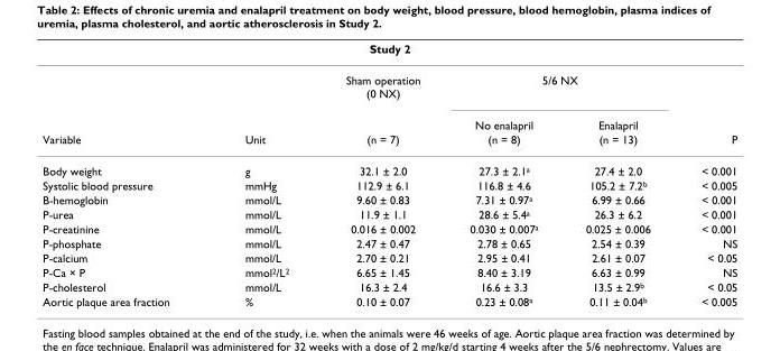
<table><thead><tr><td colspan="6">Study 2</td></tr><tr><td rowspan="2"></td><td rowspan="2"></td><td rowspan="2">Sham operation (0 NX)</td><td colspan="2">5/6 NX</td><td rowspan="2"></td></tr><tr><td>No enalapril</td><td>Enalapril</td></tr></thead><tbody><tr><td>Variable</td><td>Unit</td><td>(n = 7)</td><td>(n = 8)</td><td>(n = 13)</td><td>P</td></tr><tr><td>Body weight</td><td>g</td><td>32.1 ± 2.0</td><td>27.3 ± 2.1<sup>a</sup></td><td>27.4 ± 2.0</td><td>&lt; 0.001</td></tr><tr><td>Systolic blood pressure</td><td>mmHg</td><td>112.9 ± 6.1</td><td>116.8 ± 4.6</td><td>105.2 ± 7.2<sup>b</sup></td><td>&lt; 0.005</td></tr><tr><td>B-hemoglobin</td><td>mmol/L</td><td>9.60 ± 0.83</td><td>7.31 ± 0.97<sup>a</sup></td><td>6.99 ± 0.66</td><td>&lt; 0.001</td></tr><tr><td>P-urea</td><td>mmol/L</td><td>11.9 ± 1.1</td><td>28.6 ± 5.4<sup>a</sup></td><td>26.3 ± 6.2</td><td>&lt; 0.001</td></tr><tr><td>P-creatinine</td><td>mmol/L</td><td>0.016 ± 0.002</td><td>0.030 ± 0.007<sup>a</sup></td><td>0.025 ± 0.006</td><td>&lt; 0.001</td></tr><tr><td>P-phosphate</td><td>mmol/L</td><td>2.47 ± 0.47</td><td>2.78 ± 0.65</td><td>2.54 ± 0.39</td><td>NS</td></tr><tr><td>P-calcium</td><td>mmol/L</td><td>2.70 ± 0.21</td><td>2.95 ± 0.41</td><td>2.61 ± 0.07</td><td>&lt; 0.05</td></tr><tr><td>P-Ca × P</td><td>mmol<sup>2</sup>/L<sup>2</sup></td><td>6.65 ± 1.45</td><td>8.40 ± 3.19</td><td>6.63 ± 0.99</td><td>NS</td></tr><tr><td>P-cholesterol</td><td>mmol/L</td><td>16.3 ± 2.4</td><td>16.6 ± 3.3</td><td>13.5 ± 2.9<sup>b</sup></td><td>&lt; 0.05</td></tr><tr><td>Aortic plaque area fraction</td><td>%</td><td>0.10 ± 0.07</td><td>0.23 ± 0.08<sup>a</sup></td><td>0.11 ± 0.04<sup>b</sup></td><td>&lt; 0.005</td></tr></tbody></table>